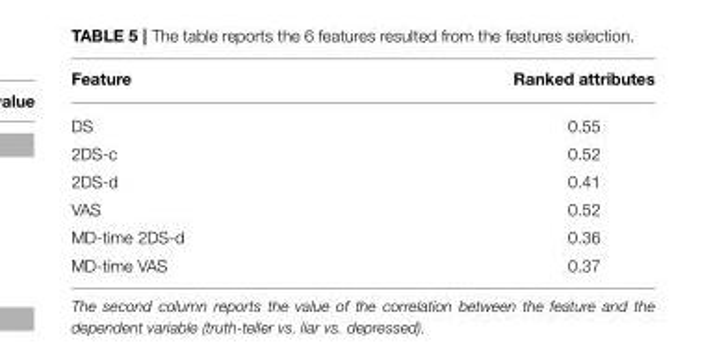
<table><thead><tr><td>Feature</td><td>Ranked attributes</td></tr></thead><tbody><tr><td>DS</td><td>0.55</td></tr><tr><td>2DS-c</td><td>0.52</td></tr><tr><td>2DS-d</td><td>0.41</td></tr><tr><td>VAS</td><td>0.52</td></tr><tr><td>MD-time 2DS-d</td><td>0.36</td></tr><tr><td>MD-time VAS</td><td>0.37</td></tr></tbody></table>